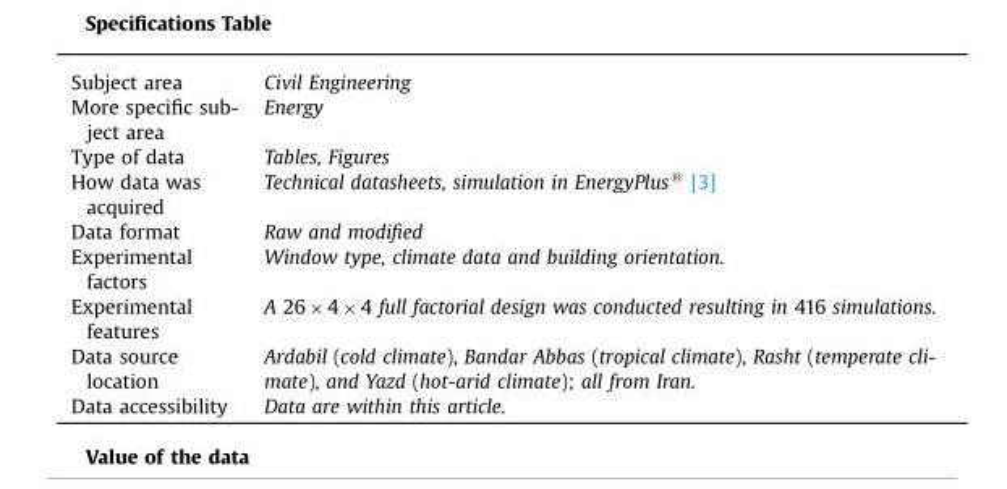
<table><tbody><tr><td>Subject area</td><td>Civil Engineering</td></tr><tr><td>More specific sub- ject area</td><td>Energy</td></tr><tr><td>Type of data</td><td>Tables, Figures</td></tr><tr><td>How data was acquired</td><td>Technical datasheets, simulation in EnergyPlus® [3]</td></tr><tr><td>Data format</td><td>Raw and modified</td></tr><tr><td>Experimental factors</td><td>Window type, climate data and building orientation.</td></tr><tr><td>Experimental features</td><td>A 26 × 4 × 4 full factorial design was conducted resulting in 416 simulations.</td></tr><tr><td>Data source location</td><td>Ardabil (cold climate), Bandar Abbas (tropical climate), Rasht (temperate cli- mate), and Yazd (hot-arid climate); all from Iran.</td></tr><tr><td>Data accessibility</td><td>Data are within this article.</td></tr></tbody></table>